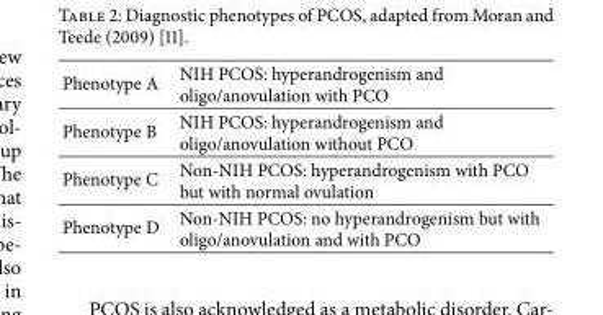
<table><tbody><tr><td>Phenotype A</td><td>NIH PCOS: hyperandrogenism and oligo/anovulation with PCO</td></tr><tr><td>Phenotype B</td><td>NIH PCOS: hyperandrogenism and oligo/anovulation without PCO</td></tr><tr><td>Phenotype C</td><td>Non-NIH PCOS: hyperandrogenism with PCO but with normal ovulation</td></tr><tr><td>Phenotype D</td><td>Non-NIH PCOS: no hyperandrogenism but with oligo/anovulation and with PCO</td></tr></tbody></table>